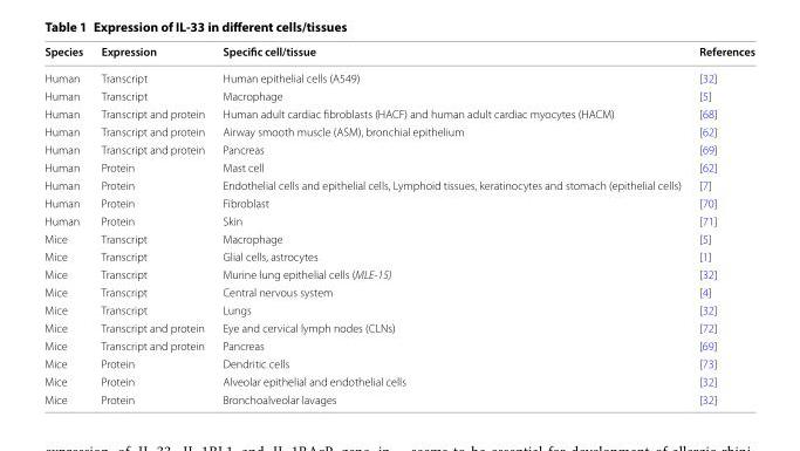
<table><thead><tr><td>Species</td><td>Expression</td><td>Specific cell/tissue</td><td>References</td></tr></thead><tbody><tr><td>Human</td><td>Transcript</td><td>Human epithelial cells (A549)</td><td>[32]</td></tr><tr><td>Human</td><td>Transcript</td><td>Macrophage</td><td>[5]</td></tr><tr><td>Human</td><td>Transcript and protein</td><td>Human adult cardiac fibroblasts (HACF) and human adult cardiac myocytes (HACM)</td><td>[68]</td></tr><tr><td>Human</td><td>Transcript and protein</td><td>Airway smooth muscle (ASM), bronchial epithelium</td><td>[62]</td></tr><tr><td>Human</td><td>Transcript and protein</td><td>Pancreas</td><td>[69]</td></tr><tr><td>Human</td><td>Protein</td><td>Mast cell</td><td>[62]</td></tr><tr><td>Human</td><td>Protein</td><td>Endothelial cells and epithelial cells, Lymphoid tissues, keratinocytes and stomach (epithelial cells)</td><td>[7]</td></tr><tr><td>Human</td><td>Protein</td><td>Fibroblast</td><td>[70]</td></tr><tr><td>Human</td><td>Protein</td><td>Skin</td><td>[71]</td></tr><tr><td>Mice</td><td>Transcript</td><td>Macrophage</td><td>[5]</td></tr><tr><td>Mice</td><td>Transcript</td><td>Glial cells, astrocytes</td><td>[1]</td></tr><tr><td>Mice</td><td>Transcript</td><td>Murine lung epithelial cells (MLE-15)</td><td>[32]</td></tr><tr><td>Mice</td><td>Transcript</td><td>Central nervous system</td><td>[4]</td></tr><tr><td>Mice</td><td>Transcript</td><td>Lungs</td><td>[32]</td></tr><tr><td>Mice</td><td>Transcript and protein</td><td>Eye and cervical lymph nodes (CLNs)</td><td>[72]</td></tr><tr><td>Mice</td><td>Transcript and protein</td><td>Pancreas</td><td>[69]</td></tr><tr><td>Mice</td><td>Protein</td><td>Dendritic cells</td><td>[73]</td></tr><tr><td>Mice</td><td>Protein</td><td>Alveolar epithelial and endothelial cells</td><td>[32]</td></tr><tr><td>Mice</td><td>Protein</td><td>Bronchoalveolar lavages</td><td>[32]</td></tr></tbody></table>